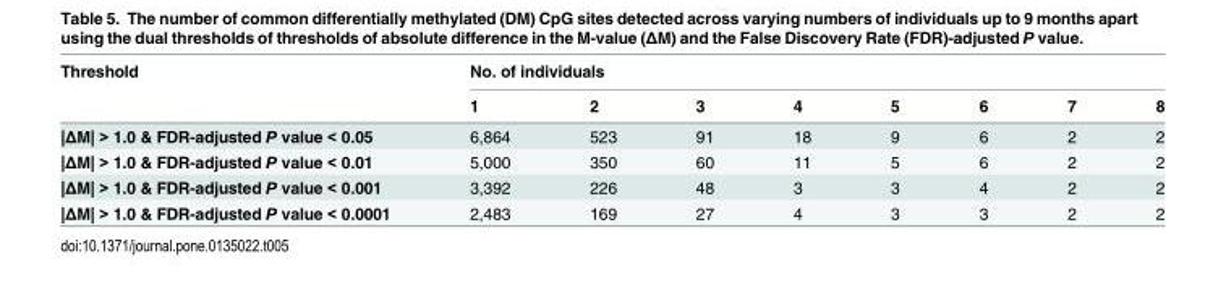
<table><thead><tr><td rowspan="2">Threshold</td><td colspan="8">No. of individuals</td></tr><tr><td>1</td><td>2</td><td>3</td><td>4</td><td>5</td><td>6</td><td>7</td><td>8</td></tr></thead><tbody><tr><td>|ΔM| &gt; 1.0 &amp; FDR-adjusted P value &lt; 0.05</td><td>6,864</td><td>523</td><td>91</td><td>18</td><td>9</td><td>6</td><td>2</td><td>2</td></tr><tr><td>|ΔM| &gt; 1.0 &amp; FDR-adjusted P value &lt; 0.01</td><td>5,000</td><td>350</td><td>60</td><td>11</td><td>5</td><td>6</td><td>2</td><td>2</td></tr><tr><td>|ΔM| &gt; 1.0 &amp; FDR-adjusted P value &lt; 0.001</td><td>3,392</td><td>226</td><td>48</td><td>3</td><td>3</td><td>4</td><td>2</td><td>2</td></tr><tr><td>|ΔM| &gt; 1.0 &amp; FDR-adjusted P value &lt; 0.0001</td><td>2,483</td><td>169</td><td>27</td><td>4</td><td>3</td><td>3</td><td>2</td><td>2</td></tr></tbody></table>